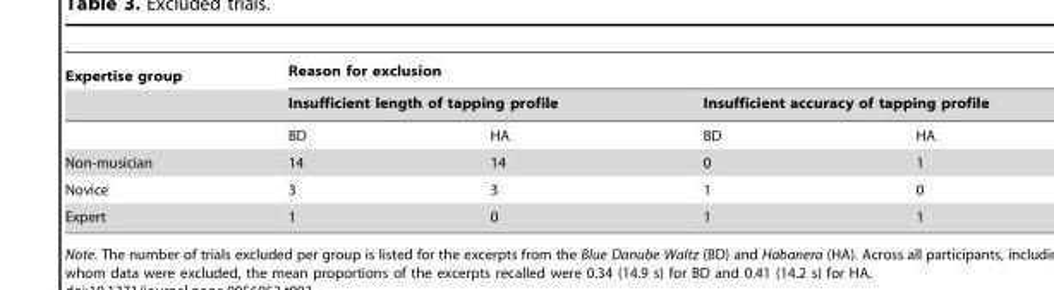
<table><thead><tr><td rowspan="3">Expertise group</td><td colspan="4">Reason for exclusion</td></tr><tr><td colspan="2">Insufficient length of tapping profile</td><td colspan="2">Insufficient accuracy of tapping profile</td></tr><tr><td>BD</td><td>HA</td><td>BD</td><td>HA</td></tr></thead><tbody><tr><td>Non-musician</td><td>14</td><td>14</td><td>0</td><td>1</td></tr><tr><td>Novice</td><td>3</td><td>3</td><td>1</td><td>0</td></tr><tr><td>Expert</td><td>1</td><td>0</td><td>1</td><td>1</td></tr></tbody></table>